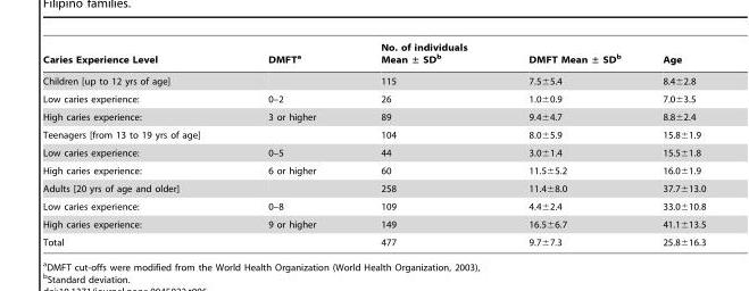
<table><thead><tr><td>Caries Experience Level</td><td>DMFT<sup>a</sup></td><td>No. of individuals Mean ± SD<sup>b</sup></td><td>DMFT Mean ± SD<sup>b</sup></td><td>Age</td></tr></thead><tbody><tr><td>Children [up to 12 yrs of age]</td><td></td><td>115</td><td>7.5±5.4</td><td>8.4±2.8</td></tr><tr><td>Low caries experience:</td><td>0–2</td><td>26</td><td>1.0±0.9</td><td>7.0±3.5</td></tr><tr><td>High caries experience:</td><td>3 or higher</td><td>89</td><td>9.4±4.7</td><td>8.8±2.4</td></tr><tr><td>Teenagers [from 13 to 19 yrs of age]</td><td></td><td>104</td><td>8.0±5.9</td><td>15.8±1.9</td></tr><tr><td>Low caries experience:</td><td>0–5</td><td>44</td><td>3.0±1.4</td><td>15.5±1.8</td></tr><tr><td>High caries experience:</td><td>6 or higher</td><td>60</td><td>11.5±5.2</td><td>16.0±1.9</td></tr><tr><td>Adults [20 yrs of age and older]</td><td></td><td>258</td><td>11.4±8.0</td><td>37.7±13.0</td></tr><tr><td>Low caries experience:</td><td>0–8</td><td>109</td><td>4.4±2.4</td><td>33.0±10.8</td></tr><tr><td>High caries experience:</td><td>9 or higher</td><td>149</td><td>16.5±6.7</td><td>41.1±13.5</td></tr><tr><td>Total</td><td></td><td>477</td><td>9.7±7.3</td><td>25.8±16.3</td></tr></tbody></table>